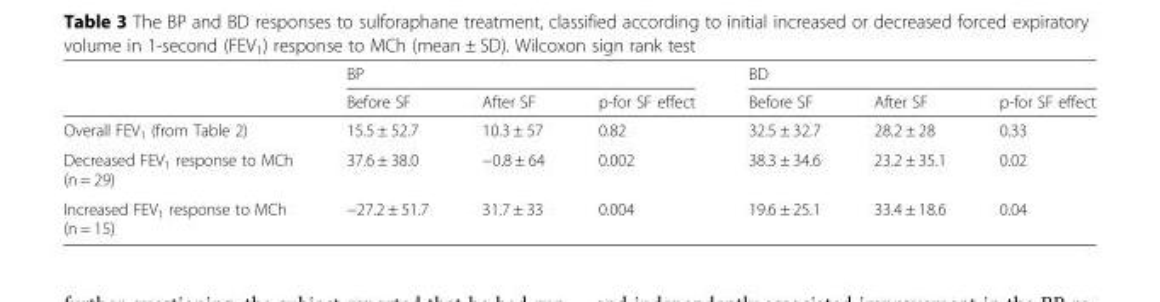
<table><thead><tr><td rowspan="2"></td><td colspan="3">BP</td><td colspan="3">BD</td></tr><tr><td>Before SF</td><td>After SF</td><td>p-for SF effect</td><td>Before SF</td><td>After SF</td><td>p-for SF effect</td></tr></thead><tbody><tr><td>Overall FEV<sub>1</sub> (from Table 2)</td><td>15.5 ± 52.7</td><td>10.3 ± 57</td><td>0.82</td><td>32.5 ± 32.7</td><td>28.2 ± 28</td><td>0.33</td></tr><tr><td>Decreased FEV<sub>1</sub> response to MCh (n = 29)</td><td>37.6 ± 38.0</td><td>−0.8 ± 64</td><td>0.002</td><td>38.3 ± 34.6</td><td>23.2 ± 35.1</td><td>0.02</td></tr><tr><td>Increased FEV<sub>1</sub> response to MCh (n = 15)</td><td>−27.2 ± 51.7</td><td>31.7 ± 33</td><td>0.004</td><td>19.6 ± 25.1</td><td>33.4 ± 18.6</td><td>0.04</td></tr></tbody></table>